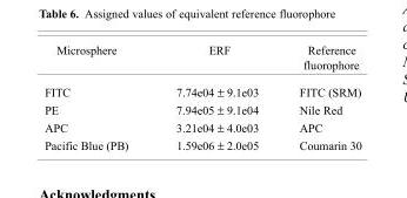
<table><thead><tr><td>Microsphere</td><td>ERF</td><td>Reference fluorophore</td></tr></thead><tbody><tr><td>FITC</td><td>7.74e04 ± 9.1e03</td><td>FITC (SRM)</td></tr><tr><td>PE</td><td>7.94e05 ± 9.1e04</td><td>Nile Red</td></tr><tr><td>APC</td><td>3.21e04 ± 4.0e03</td><td>APC</td></tr><tr><td>Pacific Blue (PB)</td><td>1.59e06 ± 2.0e05</td><td>Coumarin 30</td></tr></tbody></table>